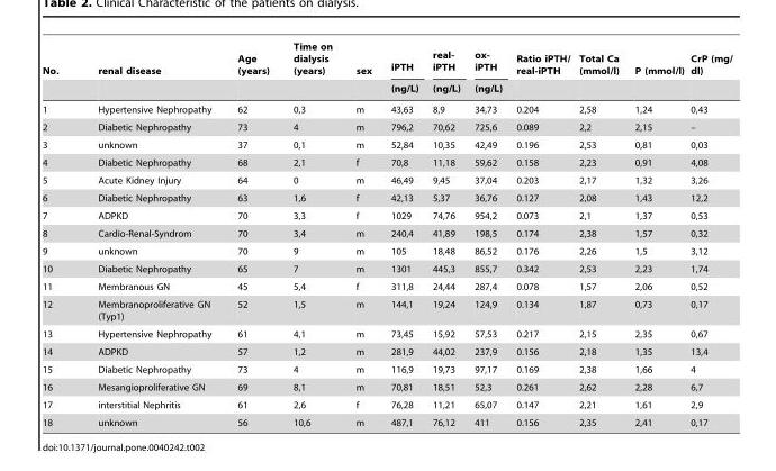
<table><thead><tr><td rowspan="2">No.</td><td rowspan="2">renal disease</td><td rowspan="2">Age (years)</td><td rowspan="2">Time on dialysis (years)</td><td rowspan="2">sex</td><td rowspan="2">iPTH (ng/L)</td><td rowspan="2">real- iPTH (ng/L)</td><td rowspan="2">ox- iPTH (ng/L)</td><td rowspan="2">Ratio iPTH/ real-iPTH</td><td rowspan="2">Total Ca (mmol/l)</td><td rowspan="2">P (mmol/l)</td><td rowspan="2">CrP (mg/ dl)</td></tr><tr></tr></thead><tbody><tr><td>1</td><td>Hypertensive Nephropathy</td><td>62</td><td>0,3</td><td>m</td><td>43,63</td><td>8,9</td><td>34,73</td><td>0.204</td><td>2,58</td><td>1,24</td><td>0,43</td></tr><tr><td>2</td><td>Diabetic Nephropathy</td><td>73</td><td>4</td><td>m</td><td>796,2</td><td>70,62</td><td>725,6</td><td>0.089</td><td>2,2</td><td>2,15</td><td>–</td></tr><tr><td>3</td><td>unknown</td><td>37</td><td>0,1</td><td>m</td><td>52,84</td><td>10,35</td><td>42,49</td><td>0.196</td><td>2,53</td><td>0,81</td><td>0,03</td></tr><tr><td>4</td><td>Diabetic Nephropathy</td><td>68</td><td>2,1</td><td>f</td><td>70,8</td><td>11,18</td><td>59,62</td><td>0.158</td><td>2,23</td><td>0,91</td><td>4,08</td></tr><tr><td>5</td><td>Acute Kidney Injury</td><td>64</td><td>0</td><td>m</td><td>46,49</td><td>9,45</td><td>37,04</td><td>0.203</td><td>2,17</td><td>1,32</td><td>3,26</td></tr><tr><td>6</td><td>Diabetic Nephropathy</td><td>63</td><td>1,6</td><td>f</td><td>42,13</td><td>5,37</td><td>36,76</td><td>0.127</td><td>2,08</td><td>1,43</td><td>12,2</td></tr><tr><td>7</td><td>ADPKD</td><td>70</td><td>3,3</td><td>f</td><td>1029</td><td>74,76</td><td>954,2</td><td>0.073</td><td>2,1</td><td>1,37</td><td>0,53</td></tr><tr><td>8</td><td>Cardio-Renal-Syndrom</td><td>70</td><td>3,4</td><td>m</td><td>240,4</td><td>41,89</td><td>198,5</td><td>0.174</td><td>2,38</td><td>1,57</td><td>0,32</td></tr><tr><td>9</td><td>unknown</td><td>70</td><td>9</td><td>m</td><td>105</td><td>18,48</td><td>86,52</td><td>0.176</td><td>2,26</td><td>1,5</td><td>3,12</td></tr><tr><td>10</td><td>Diabetic Nephropathy</td><td>65</td><td>7</td><td>m</td><td>1301</td><td>445,3</td><td>855,7</td><td>0.342</td><td>2,53</td><td>2,23</td><td>1,74</td></tr><tr><td>11</td><td>Membranous GN</td><td>45</td><td>5,4</td><td>f</td><td>311,8</td><td>24,44</td><td>287,4</td><td>0.078</td><td>1,57</td><td>2,06</td><td>0,52</td></tr><tr><td>12</td><td>Membranoproliferative GN (Typ1)</td><td>52</td><td>1,5</td><td>m</td><td>144,1</td><td>19,24</td><td>124,9</td><td>0.134</td><td>1,87</td><td>0,73</td><td>0,17</td></tr><tr><td>13</td><td>Hypertensive Nephropathy</td><td>61</td><td>4,1</td><td>m</td><td>73,45</td><td>15,92</td><td>57,53</td><td>0.217</td><td>2,15</td><td>2,35</td><td>0,67</td></tr><tr><td>14</td><td>ADPKD</td><td>57</td><td>1,2</td><td>m</td><td>281,9</td><td>44,02</td><td>237,9</td><td>0.156</td><td>2,18</td><td>1,35</td><td>13,4</td></tr><tr><td>15</td><td>Diabetic Nephropathy</td><td>73</td><td>4</td><td>m</td><td>116,9</td><td>19,73</td><td>97,17</td><td>0.169</td><td>2,38</td><td>1,66</td><td>4</td></tr><tr><td>16</td><td>Mesangioproliferative GN</td><td>69</td><td>8,1</td><td>m</td><td>70,81</td><td>18,51</td><td>52,3</td><td>0.261</td><td>2,62</td><td>2,28</td><td>6,7</td></tr><tr><td>17</td><td>interstitial Nephritis</td><td>61</td><td>2,6</td><td>f</td><td>76,28</td><td>11,21</td><td>65,07</td><td>0.147</td><td>2,21</td><td>1,61</td><td>2,9</td></tr><tr><td>18</td><td>unknown</td><td>56</td><td>10,6</td><td>m</td><td>487,1</td><td>76,12</td><td>411</td><td>0.156</td><td>2,35</td><td>2,41</td><td>0,17</td></tr></tbody></table>